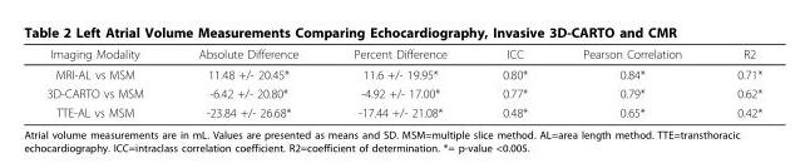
<table><thead><tr><td>Imaging Modality</td><td>Absolute Difference</td><td>Percent Difference</td><td>ICC</td><td>Pearson Correlation</td><td>R2</td></tr></thead><tbody><tr><td>MRI-AL vs MSM</td><td>11.48 +/- 20.45*</td><td>11.6 +/- 19.95*</td><td>0.80*</td><td>0.84*</td><td>0.71*</td></tr><tr><td>3D-CARTO vs MSM</td><td>-6.42 +/- 20.80*</td><td>-4.92 +/- 17.00*</td><td>0.77*</td><td>0.79*</td><td>0.62*</td></tr><tr><td>TTE-AL vs MSM</td><td>-23.84 +/- 26.68*</td><td>-17.44 +/- 21.08*</td><td>0.48*</td><td>0.65*</td><td>0.42*</td></tr></tbody></table>